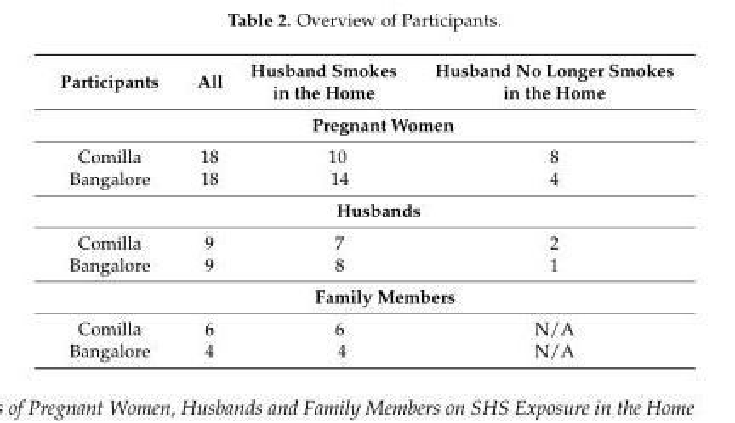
<table><thead><tr><td>Participants</td><td>All</td><td>Husband Smokes in the Home</td><td>Husband No Longer Smokes in the Home</td></tr></thead><tbody><tr><td colspan="4">Pregnant Women</td></tr><tr><td>Comilla</td><td>18</td><td>10</td><td>8</td></tr><tr><td>Bangalore</td><td>18</td><td>14</td><td>4</td></tr><tr><td colspan="4">Husbands</td></tr><tr><td>Comilla</td><td>9</td><td>7</td><td>2</td></tr><tr><td>Bangalore</td><td>9</td><td>8</td><td>1</td></tr><tr><td colspan="4">Family Members</td></tr><tr><td>Comilla</td><td>6</td><td>6</td><td>N/A</td></tr><tr><td>Bangalore</td><td>4</td><td>4</td><td>N/A</td></tr></tbody></table>